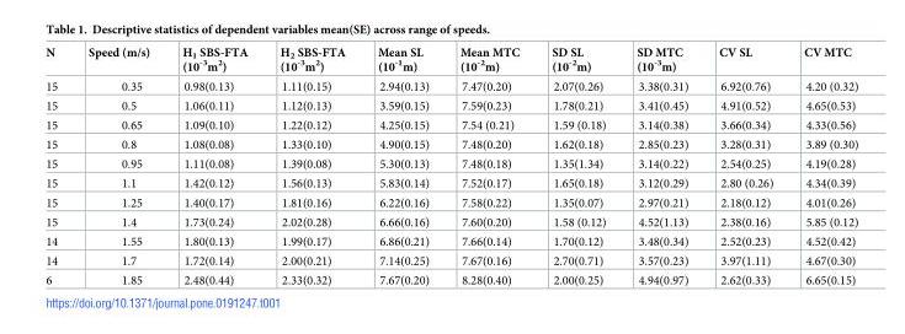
<table><thead><tr><td>N</td><td>Speed (m/s)</td><td>H<sub>1</sub> SBS-FTA (10<sup>-3</sup>m<sup>2</sup>)</td><td>H<sub>2</sub> SBS-FTA (10<sup>-3</sup>m<sup>2</sup>)</td><td>Mean SL (10<sup>-1</sup>m)</td><td>Mean MTC (10<sup>-2</sup>m)</td><td>SD SL (10<sup>-2</sup>m)</td><td>SD MTC (10<sup>-3</sup>m)</td><td>CV SL</td><td>CV MTC</td></tr></thead><tbody><tr><td>15</td><td>0.35</td><td>0.98(0.13)</td><td>1.11(0.15)</td><td>2.94(0.13)</td><td>7.47(0.20)</td><td>2.07(0.26)</td><td>3.38(0.31)</td><td>6.92(0.76)</td><td>4.20 (0.32)</td></tr><tr><td>15</td><td>0.5</td><td>1.06(0.11)</td><td>1.12(0.13)</td><td>3.59(0.15)</td><td>7.59(0.23)</td><td>1.78(0.21)</td><td>3.41(0.45)</td><td>4.91(0.52)</td><td>4.65(0.53)</td></tr><tr><td>15</td><td>0.65</td><td>1.09(0.10)</td><td>1.22(0.12)</td><td>4.25(0.15)</td><td>7.54 (0.21)</td><td>1.59 (0.18)</td><td>3.14(0.38)</td><td>3.66(0.34)</td><td>4.33(0.56)</td></tr><tr><td>15</td><td>0.8</td><td>1.08(0.08)</td><td>1.33(0.10)</td><td>4.90(0.15)</td><td>7.48(0.20)</td><td>1.62(0.18)</td><td>2.85(0.23)</td><td>3.28(0.31)</td><td>3.89 (0.30)</td></tr><tr><td>15</td><td>0.95</td><td>1.11(0.08)</td><td>1.39(0.08)</td><td>5.30(0.13)</td><td>7.48(0.18)</td><td>1.35(1.34)</td><td>3.14(0.22)</td><td>2.54(0.25)</td><td>4.19(0.28)</td></tr><tr><td>15</td><td>1.1</td><td>1.42(0.12)</td><td>1.56(0.13)</td><td>5.83(0.14)</td><td>7.52(0.17)</td><td>1.65(0.18)</td><td>3.12(0.29)</td><td>2.80 (0.26)</td><td>4.34(0.39)</td></tr><tr><td>15</td><td>1.25</td><td>1.40(0.17)</td><td>1.81(0.16)</td><td>6.22(0.16)</td><td>7.58(0.22)</td><td>1.35(0.07)</td><td>2.97(0.21)</td><td>2.18(0.12)</td><td>4.01(0.26)</td></tr><tr><td>15</td><td>1.4</td><td>1.73(0.24)</td><td>2.02(0.28)</td><td>6.66(0.16)</td><td>7.60(0.20)</td><td>1.58 (0.12)</td><td>4.52(1.13)</td><td>2.38(0.16)</td><td>5.85 (0.12)</td></tr><tr><td>14</td><td>1.55</td><td>1.80(0.13)</td><td>1.99(0.17)</td><td>6.86(0.21)</td><td>7.66(0.14)</td><td>1.70(0.12)</td><td>3.48(0.34)</td><td>2.52(0.23)</td><td>4.52(0.42)</td></tr><tr><td>14</td><td>1.7</td><td>1.72(0.14)</td><td>2.00(0.21)</td><td>7.14(0.25)</td><td>7.67(0.16)</td><td>2.70(0.71)</td><td>3.57(0.23)</td><td>3.97(1.11)</td><td>4.67(0.30)</td></tr><tr><td>6</td><td>1.85</td><td>2.48(0.44)</td><td>2.33(0.32)</td><td>7.67(0.20)</td><td>8.28(0.40)</td><td>2.00(0.25)</td><td>4.94(0.97)</td><td>2.62(0.33)</td><td>6.65(0.15)</td></tr></tbody></table>